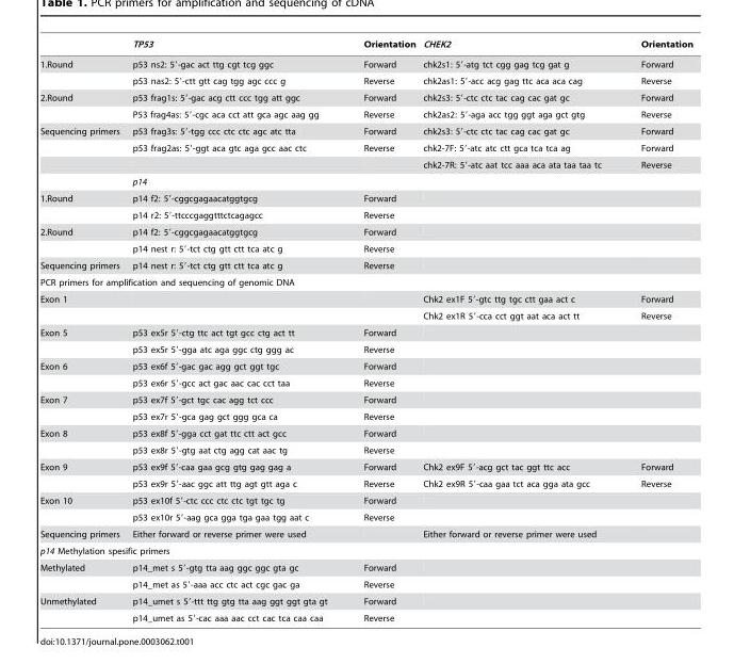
<table><thead><tr><td></td><td>TP53</td><td>Orientation</td><td>CHEK2</td><td>Orientation</td></tr></thead><tbody><tr><td rowspan="2">1.Round</td><td>p53 ns2: 5′-gac act ttg cgt tcg ggc</td><td>Forward</td><td>chk2s1: 5′-atg tct cgg gag tcg gat g</td><td>Forward</td></tr><tr><td>p53 nas2: 5′-ctt gtt cag tgg agc ccc g</td><td>Reverse</td><td>chk2as1: 5′-acc acg gag ttc aca aca cag</td><td>Reverse</td></tr><tr><td rowspan="2">2.Round</td><td>p53 frag1s: 5′-gac acg ctt ccc tgg att ggc</td><td>Forward</td><td>chk2s3: 5′-ctc ctc tac cag cac gat gc</td><td>Forward</td></tr><tr><td>P53 frag4as: 5′-cgc aca cct att gca agc aag gg</td><td>Reverse</td><td>chk2as2: 5′-aga acc tgg ggt aga gct gtg</td><td>Reverse</td></tr><tr><td rowspan="4">Sequencing primers</td><td>p53 frag3s: 5′-tgg ccc ctc ctc agc atc tta</td><td>Forward</td><td>chk2s3: 5′-ctc ctc tac cag cac gat gc</td><td>Forward</td></tr><tr><td>p53 frag2as: 5′-ggt aca gtc aga gcc aac ctc</td><td>Reverse</td><td>chk2-7F: 5′-atc atc ctt gca tca tca ag</td><td>Forward</td></tr><tr><td></td><td></td><td>chk2-7R: 5′-atc aat tcc aaa aca ata taa taa tc</td><td>Reverse</td></tr><tr><td>p14</td><td></td><td></td><td></td></tr><tr><td rowspan="2">1.Round</td><td>p14 f2: 5′-cggcgagaacatggtgcg</td><td>Forward</td><td></td><td></td></tr><tr><td>p14 r2: 5′-ttcccgaggtttctcagagcc</td><td>Reverse</td><td></td><td></td></tr><tr><td rowspan="2">2.Round</td><td>p14 f2: 5′-cggcgagaacatggtgcg</td><td>Forward</td><td></td><td></td></tr><tr><td>p14 nest r: 5′-tct ctg gtt ctt tca atc g</td><td>Reverse</td><td></td><td></td></tr><tr><td>Sequencing primers</td><td>p14 nest r: 5′-tct ctg gtt ctt tca atc g</td><td>Reverse</td><td></td><td></td></tr><tr><td colspan="5">PCR primers for amplification and sequencing of genomic DNA</td></tr><tr><td rowspan="2">Exon 1</td><td></td><td></td><td>Chk2 ex1F 5′-gtc ttg tgc ctt gaa act c</td><td>Forward</td></tr><tr><td></td><td></td><td>Chk2 ex1R 5′-cca cct ggt aat aca act tt</td><td>Reverse</td></tr><tr><td rowspan="2">Exon 5</td><td>p53 ex5r 5′-ctg ttc act tgt gcc ctg act tt</td><td>Forward</td><td></td><td></td></tr><tr><td>p53 ex5r 5′-gga atc aga ggc ctg ggg ac</td><td>Reverse</td><td></td><td></td></tr><tr><td rowspan="2">Exon 6</td><td>p53 ex6f 5′-gac gac agg gct ggt tgc</td><td>Forward</td><td></td><td></td></tr><tr><td>p53 ex6r 5′-gcc act gac aac cac cct taa</td><td>Reverse</td><td></td><td></td></tr><tr><td rowspan="2">Exon 7</td><td>p53 ex7f 5′-gct tgc cac agg tct ccc</td><td>Forward</td><td></td><td></td></tr><tr><td>p53 ex7r 5′-gca gag gct ggg gca ca</td><td>Reverse</td><td></td><td></td></tr><tr><td rowspan="2">Exon 8</td><td>p53 ex8f 5′-gga cct gat ttc ctt act gcc</td><td>Forward</td><td></td><td></td></tr><tr><td>p53 ex8r 5′-gtg aat ctg agg cat aac tg</td><td>Reverse</td><td></td><td></td></tr><tr><td rowspan="2">Exon 9</td><td>p53 ex9f 5′-caa gaa gcg gtg gag gag a</td><td>Forward</td><td>Chk2 ex9F 5′-acg gct tac ggt ttc acc</td><td>Forward</td></tr><tr><td>p53 ex9r 5′-aac ggc att ttg agt gtt aga c</td><td>Reverse</td><td>Chk2 ex9R 5′-caa gaa tct aca gga ata gcc</td><td>Reverse</td></tr><tr><td rowspan="2">Exon 10</td><td>p53 ex10f 5′-ctc ccc ctc ctc tgt tgc tg</td><td>Forward</td><td></td><td></td></tr><tr><td>p53 ex10r 5′-aag gca gga tga gaa tgg aat c</td><td>Reverse</td><td></td><td></td></tr><tr><td>Sequencing primers</td><td>Either forward or reverse primer were used</td><td></td><td>Either forward or reverse primer were used</td><td></td></tr><tr><td colspan="5">p14 Methylation spesific primers</td></tr><tr><td rowspan="2">Methylated</td><td>p14_met s 5′-gtg tta aag ggc ggc gta gc</td><td>Forward</td><td></td><td></td></tr><tr><td>p14_met as 5′-aaa acc ctc act cgc gac ga</td><td>Reverse</td><td></td><td></td></tr><tr><td rowspan="2">Unmethylated</td><td>p14_umet s 5′-ttt ttg gtg tta aag ggt ggt gta gt</td><td>Forward</td><td></td><td></td></tr><tr><td>p14_umet as 5′-cac aaa aac cct cac tca caa caa</td><td>Reverse</td><td></td><td></td></tr></tbody></table>